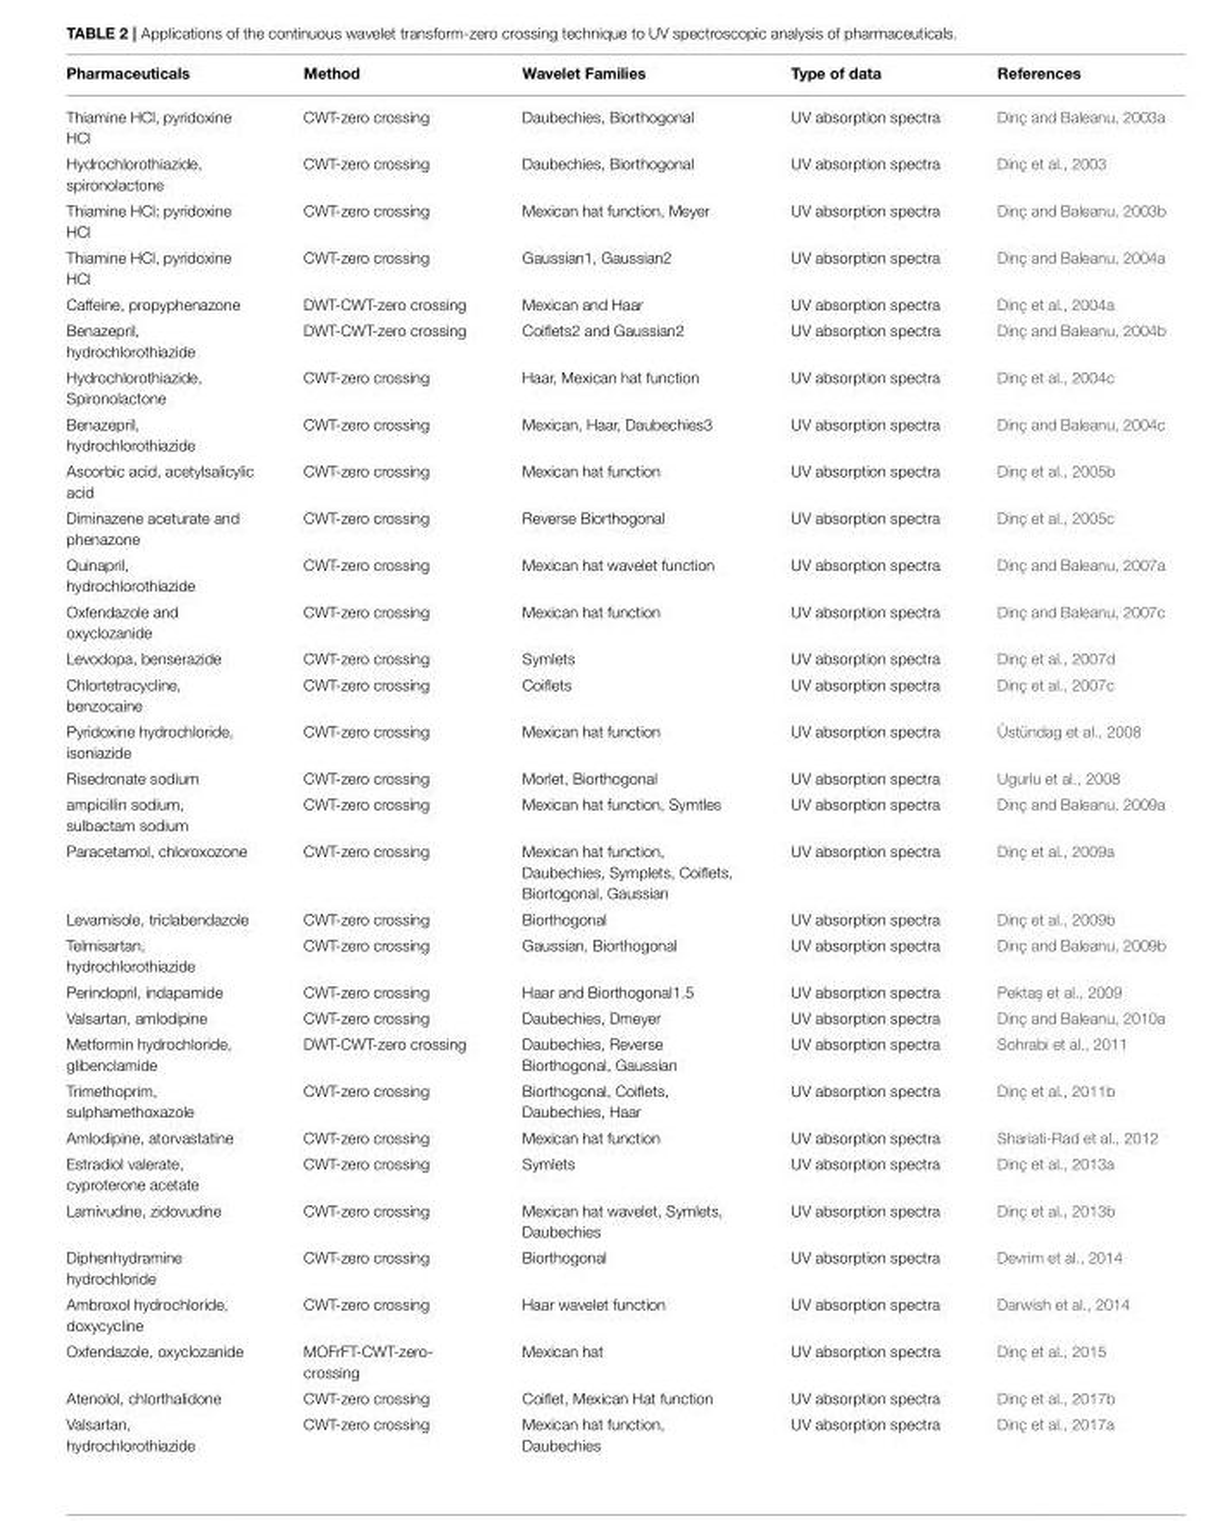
<table><thead><tr><td>Pharmaceuticals</td><td>Method</td><td>Wavelet Families</td><td>Type of data</td><td>References</td></tr></thead><tbody><tr><td>Thiamine HCl, pyridoxine HCl</td><td>CWT-zero crossing</td><td>Daubechies, Biorthogonal</td><td>UV absorption spectra</td><td>Dinç and Baleanu, 2003a</td></tr><tr><td>Hydrochlorothiazide, spironolactone</td><td>CWT-zero crossing</td><td>Daubechies, Biorthogonal</td><td>UV absorption spectra</td><td>Dinç et al., 2003</td></tr><tr><td>Thiamine HCl; pyridoxine HCl</td><td>CWT-zero crossing</td><td>Mexican hat function, Meyer</td><td>UV absorption spectra</td><td>Dinç and Baleanu, 2003b</td></tr><tr><td>Thiamine HCl, pyridoxine HCl</td><td>CWT-zero crossing</td><td>Gaussian1, Gaussian2</td><td>UV absorption spectra</td><td>Dinç and Baleanu, 2004a</td></tr><tr><td>Caffeine, propyphenazone</td><td>DWT-CWT-zero crossing</td><td>Mexican and Haar</td><td>UV absorption spectra</td><td>Dinç et al., 2004a</td></tr><tr><td>Benazepril, hydrochlorothiazide</td><td>DWT-CWT-zero crossing</td><td>Coiflets2 and Gaussian2</td><td>UV absorption spectra</td><td>Dinç and Baleanu, 2004b</td></tr><tr><td>Hydrochlorothiazide, Spironolactone</td><td>CWT-zero crossing</td><td>Haar, Mexican hat function</td><td>UV absorption spectra</td><td>Dinç et al., 2004c</td></tr><tr><td>Benazepril, hydrochlorothiazide</td><td>CWT-zero crossing</td><td>Mexican, Haar, Daubechies3</td><td>UV absorption spectra</td><td>Dinç and Baleanu, 2004c</td></tr><tr><td>Ascorbic acid, acetylsalicylic acid</td><td>CWT-zero crossing</td><td>Mexican hat function</td><td>UV absorption spectra</td><td>Dinç et al., 2005b</td></tr><tr><td>Diminazene aceturate and phenazone</td><td>CWT-zero crossing</td><td>Reverse Biorthogonal</td><td>UV absorption spectra</td><td>Dinç et al., 2005c</td></tr><tr><td>Quinapril, hydrochlorothiazide</td><td>CWT-zero crossing</td><td>Mexican hat wavelet function</td><td>UV absorption spectra</td><td>Dinç and Baleanu, 2007a</td></tr><tr><td>Oxfendazole and oxyclozanide</td><td>CWT-zero crossing</td><td>Mexican hat function</td><td>UV absorption spectra</td><td>Dinç and Baleanu, 2007c</td></tr><tr><td>Levodopa, benserazide</td><td>CWT-zero crossing</td><td>Symlets</td><td>UV absorption spectra</td><td>Dinç et al., 2007d</td></tr><tr><td>Chlortetracycline, benzocaine</td><td>CWT-zero crossing</td><td>Coiflets</td><td>UV absorption spectra</td><td>Dinç et al., 2007c</td></tr><tr><td>Pyridoxine hydrochloride, isoniazide</td><td>CWT-zero crossing</td><td>Mexican hat function</td><td>UV absorption spectra</td><td>Üstündag et al., 2008</td></tr><tr><td>Risedronate sodium</td><td>CWT-zero crossing</td><td>Morlet, Biorthogonal</td><td>UV absorption spectra</td><td>Ugurlu et al., 2008</td></tr><tr><td>ampicillin sodium, sulbactam sodium</td><td>CWT-zero crossing</td><td>Mexican hat function, Symtles</td><td>UV absorption spectra</td><td>Dinç and Baleanu, 2009a</td></tr><tr><td>Paracetamol, chloroxozone</td><td>CWT-zero crossing</td><td>Mexican hat function, Daubechies, Symplets, Coiflets, Biortogonal, Gaussian</td><td>UV absorption spectra</td><td>Dinç et al., 2009a</td></tr><tr><td>Levamisole, triclabendazole</td><td>CWT-zero crossing</td><td>Biorthogonal</td><td>UV absorption spectra</td><td>Dinç et al., 2009b</td></tr><tr><td>Telmisartan, hydrochlorothiazide</td><td>CWT-zero crossing</td><td>Gaussian, Biorthogonal</td><td>UV absorption spectra</td><td>Dinç and Baleanu, 2009b</td></tr><tr><td>Perindopril, indapamide</td><td>CWT-zero crossing</td><td>Haar and Biorthogonal1.5</td><td>UV absorption spectra</td><td>Pekta¸s et al., 2009</td></tr><tr><td>Valsartan, amlodipine</td><td>CWT-zero crossing</td><td>Daubechies, Dmeyer</td><td>UV absorption spectra</td><td>Dinç and Baleanu, 2010a</td></tr><tr><td>Metformin hydrochloride, glibenclamide</td><td>DWT-CWT-zero crossing</td><td>Daubechies, Reverse Biorthogonal, Gaussian</td><td>UV absorption spectra</td><td>Sohrabi et al., 2011</td></tr><tr><td>Trimethoprim, sulphamethoxazole</td><td>CWT-zero crossing</td><td>Biorthogonal, Coiflets, Daubechies, Haar</td><td>UV absorption spectra</td><td>Dinç et al., 2011b</td></tr><tr><td>Amlodipine, atorvastatine</td><td>CWT-zero crossing</td><td>Mexican hat function</td><td>UV absorption spectra</td><td>Shariati-Rad et al., 2012</td></tr><tr><td>Estradiol valerate, cyproterone acetate</td><td>CWT-zero crossing</td><td>Symlets</td><td>UV absorption spectra</td><td>Dinç et al., 2013a</td></tr><tr><td>Lamivudine, zidovudine</td><td>CWT-zero crossing</td><td>Mexican hat wavelet, Symlets, Daubechies</td><td>UV absorption spectra</td><td>Dinç et al., 2013b</td></tr><tr><td>Diphenhydramine hydrochloride</td><td>CWT-zero crossing</td><td>Biorthogonal</td><td>UV absorption spectra</td><td>Devrim et al., 2014</td></tr><tr><td>Ambroxol hydrochloride, doxycycline</td><td>CWT-zero crossing</td><td>Haar wavelet function</td><td>UV absorption spectra</td><td>Darwish et al., 2014</td></tr><tr><td>Oxfendazole, oxyclozanide</td><td>MOFrFT-CWT-zero- crossing</td><td>Mexican hat</td><td>UV absorption spectra</td><td>Dinç et al., 2015</td></tr><tr><td>Atenolol, chlorthalidone</td><td>CWT-zero crossing</td><td>Coiflet, Mexican Hat function</td><td>UV absorption spectra</td><td>Dinç et al., 2017b</td></tr><tr><td>Valsartan, hydrochlorothiazide</td><td>CWT-zero crossing</td><td>Mexican hat function, Daubechies</td><td>UV absorption spectra</td><td>Dinç et al., 2017a</td></tr></tbody></table>